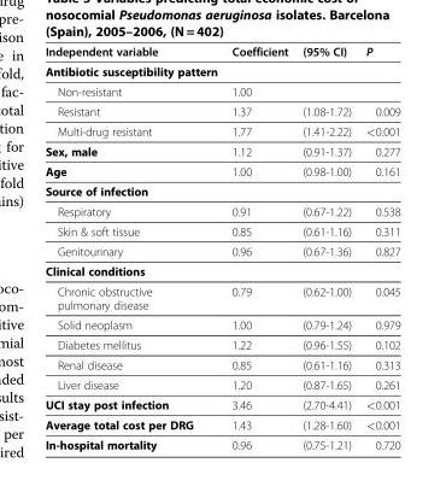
<table><thead><tr><td>Independent variable</td><td>Coefficient</td><td>(95% CI)</td><td>P</td></tr></thead><tbody><tr><td colspan="4">Antibiotic susceptibility pattern</td></tr><tr><td>Non-resistant</td><td>1.00</td><td></td><td></td></tr><tr><td>Resistant</td><td>1.37</td><td>(1.08-1.72)</td><td>0.009</td></tr><tr><td>Multi-drug resistant</td><td>1.77</td><td>(1.41-2.22)</td><td>&lt;0.001</td></tr><tr><td>Sex, male</td><td>1.12</td><td>(0.91-1.37)</td><td>0.277</td></tr><tr><td>Age</td><td>1.00</td><td>(0.98-1.00)</td><td>0.161</td></tr><tr><td colspan="4">Source of infection</td></tr><tr><td>Respiratory</td><td>0.91</td><td>(0.67-1.22)</td><td>0.538</td></tr><tr><td>Skin &amp; soft tissue</td><td>0.85</td><td>(0.61-1.16)</td><td>0.311</td></tr><tr><td>Genitourinary</td><td>0.96</td><td>(0.67-1.36)</td><td>0.827</td></tr><tr><td colspan="4">Clinical conditions</td></tr><tr><td>Chronic obstructive pulmonary disease</td><td>0.79</td><td>(0.62-1.00)</td><td>0.045</td></tr><tr><td>Solid neoplasm</td><td>1.00</td><td>(0.79-1.24)</td><td>0.979</td></tr><tr><td>Diabetes mellitus</td><td>1.22</td><td>(0.96-1.55)</td><td>0.102</td></tr><tr><td>Renal disease</td><td>0.85</td><td>(0.61-1.16)</td><td>0.313</td></tr><tr><td>Liver disease</td><td>1.20</td><td>(0.87-1.65)</td><td>0.261</td></tr><tr><td>UCI stay post infection</td><td>3.46</td><td>(2.70-4.41)</td><td>&lt;0.001</td></tr><tr><td>Average total cost per DRG</td><td>1.43</td><td>(1.28-1.60)</td><td>&lt;0.001</td></tr><tr><td>In-hospital mortality</td><td>0.96</td><td>(0.75-1.21)</td><td>0.720</td></tr></tbody></table>